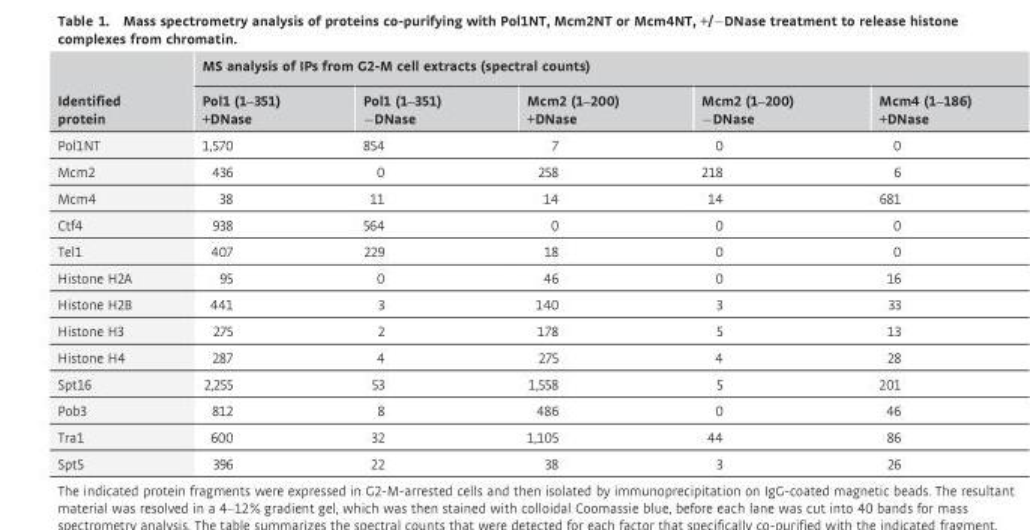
<table><thead><tr><td rowspan="2">Identified protein</td><td colspan="5">MS analysis of IPs from G2-M cell extracts (spectral counts)</td></tr><tr><td>Pol1 (1–351) +DNase</td><td>Pol1 (1–351) −DNase</td><td>Mcm2 (1–200) +DNase</td><td>Mcm2 (1–200) −DNase</td><td>Mcm4 (1–186) +DNase</td></tr></thead><tbody><tr><td>Pol1NT</td><td>1,570</td><td>854</td><td>7</td><td>0</td><td>0</td></tr><tr><td>Mcm2</td><td>436</td><td>0</td><td>258</td><td>218</td><td>6</td></tr><tr><td>Mcm4</td><td>38</td><td>11</td><td>14</td><td>14</td><td>681</td></tr><tr><td>Ctf4</td><td>938</td><td>564</td><td>0</td><td>0</td><td>0</td></tr><tr><td>Tel1</td><td>407</td><td>229</td><td>18</td><td>0</td><td>0</td></tr><tr><td>Histone H2A</td><td>95</td><td>0</td><td>46</td><td>0</td><td>16</td></tr><tr><td>Histone H2B</td><td>441</td><td>3</td><td>140</td><td>3</td><td>33</td></tr><tr><td>Histone H3</td><td>275</td><td>2</td><td>178</td><td>5</td><td>13</td></tr><tr><td>Histone H4</td><td>287</td><td>4</td><td>275</td><td>4</td><td>28</td></tr><tr><td>Spt16</td><td>2,255</td><td>53</td><td>1,558</td><td>5</td><td>201</td></tr><tr><td>Pob3</td><td>812</td><td>8</td><td>486</td><td>0</td><td>46</td></tr><tr><td>Tra1</td><td>600</td><td>32</td><td>1,105</td><td>44</td><td>86</td></tr><tr><td>Spt5</td><td>396</td><td>22</td><td>38</td><td>3</td><td>26</td></tr></tbody></table>